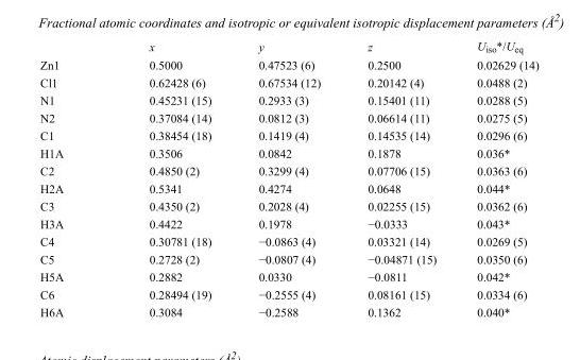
<table><thead><tr><td></td><td>x</td><td>y</td><td>z</td><td>U<sub>iso</sub>*/U<sub>eq</sub></td></tr></thead><tbody><tr><td>Zn1</td><td>0.5000</td><td>0.47523 (6)</td><td>0.2500</td><td>0.02629 (14)</td></tr><tr><td>Cl1</td><td>0.62428 (6)</td><td>0.67534 (12)</td><td>0.20142 (4)</td><td>0.0488 (2)</td></tr><tr><td>N1</td><td>0.45231 (15)</td><td>0.2933 (3)</td><td>0.15401 (11)</td><td>0.0288 (5)</td></tr><tr><td>N2</td><td>0.37084 (14)</td><td>0.0812 (3)</td><td>0.06614 (11)</td><td>0.0275 (5)</td></tr><tr><td>C1</td><td>0.38454 (18)</td><td>0.1419 (4)</td><td>0.14535 (14)</td><td>0.0296 (6)</td></tr><tr><td>H1A</td><td>0.3506</td><td>0.0842</td><td>0.1878</td><td>0.036*</td></tr><tr><td>C2</td><td>0.4850 (2)</td><td>0.3299 (4)</td><td>0.07706 (15)</td><td>0.0363 (6)</td></tr><tr><td>H2A</td><td>0.5341</td><td>0.4274</td><td>0.0648</td><td>0.044*</td></tr><tr><td>C3</td><td>0.4350 (2)</td><td>0.2028 (4)</td><td>0.02255 (15)</td><td>0.0362 (6)</td></tr><tr><td>H3A</td><td>0.4422</td><td>0.1978</td><td>−0.0333</td><td>0.043*</td></tr><tr><td>C4</td><td>0.30781 (18)</td><td>−0.0863 (4)</td><td>0.03321 (14)</td><td>0.0269 (5)</td></tr><tr><td>C5</td><td>0.2728 (2)</td><td>−0.0807 (4)</td><td>−0.04871 (15)</td><td>0.0350 (6)</td></tr><tr><td>H5A</td><td>0.2882</td><td>0.0330</td><td>−0.0811</td><td>0.042*</td></tr><tr><td>C6</td><td>0.28494 (19)</td><td>−0.2555 (4)</td><td>0.08161 (15)</td><td>0.0334 (6)</td></tr><tr><td>H6A</td><td>0.3084</td><td>−0.2588</td><td>0.1362</td><td>0.040*</td></tr></tbody></table>